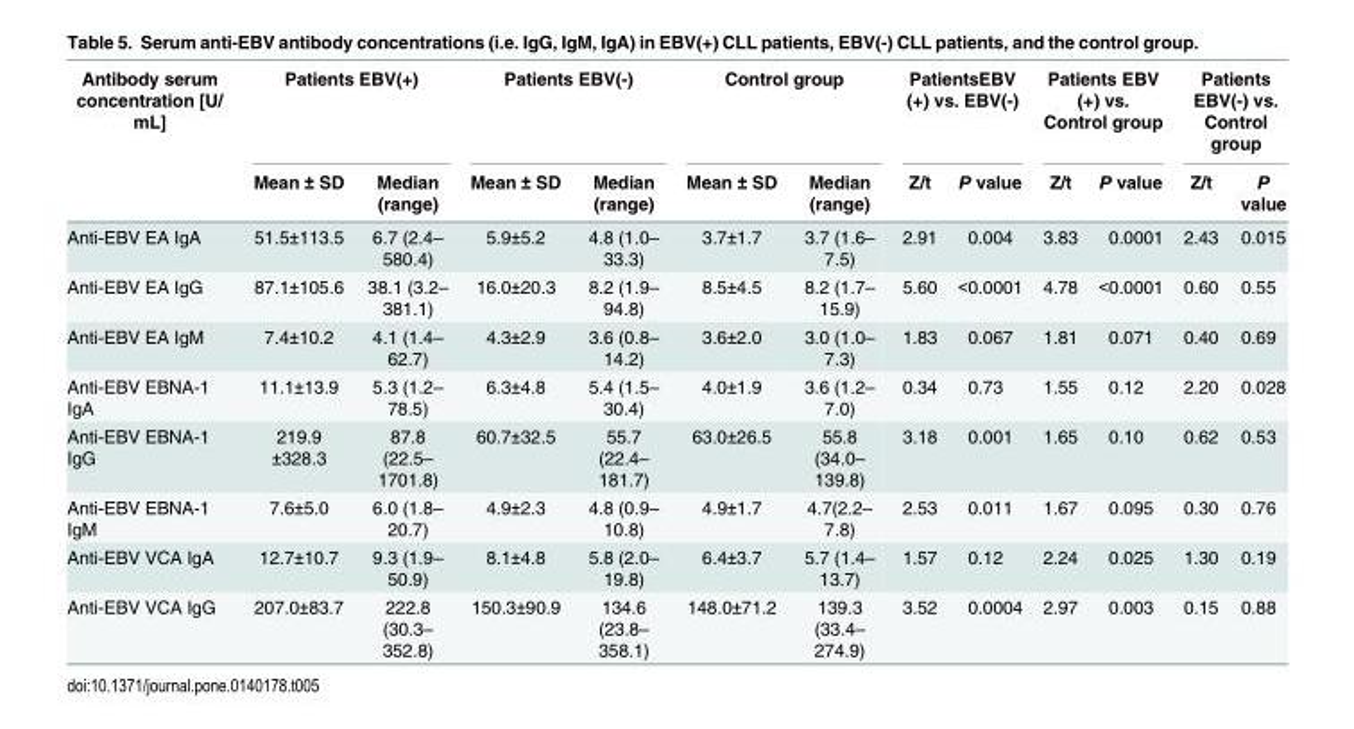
<table><thead><tr><td rowspan="2">Antibody serum concentration [U/ mL]</td><td colspan="2">Patients EBV(+)</td><td colspan="2">Patients EBV(-)</td><td colspan="2">Control group</td><td colspan="2">PatientsEBV (+) vs. EBV(-)</td><td colspan="2">Patients EBV (+) vs. Control group</td><td colspan="2">Patients EBV(-) vs. Control group</td></tr><tr><td>Mean ± SD</td><td>Median (range)</td><td>Mean ± SD</td><td>Median (range)</td><td>Mean ± SD</td><td>Median (range)</td><td>Z/t</td><td>P value</td><td>Z/t</td><td>P value</td><td>Z/t</td><td>P value</td></tr></thead><tbody><tr><td>Anti-EBV EA IgA</td><td>51.5±113.5</td><td>6.7 (2.4– 580.4)</td><td>5.9±5.2</td><td>4.8 (1.0– 33.3)</td><td>3.7±1.7</td><td>3.7 (1.6– 7.5)</td><td>2.91</td><td>0.004</td><td>3.83</td><td>0.0001</td><td>2.43</td><td>0.015</td></tr><tr><td>Anti-EBV EA IgG</td><td>87.1±105.6</td><td>38.1 (3.2– 381.1)</td><td>16.0±20.3</td><td>8.2 (1.9– 94.8)</td><td>8.5±4.5</td><td>8.2 (1.7– 15.9)</td><td>5.60</td><td>&lt;0.0001</td><td>4.78</td><td>&lt;0.0001</td><td>0.60</td><td>0.55</td></tr><tr><td>Anti-EBV EA IgM</td><td>7.4±10.2</td><td>4.1 (1.4– 62.7)</td><td>4.3±2.9</td><td>3.6 (0.8– 14.2)</td><td>3.6±2.0</td><td>3.0 (1.0– 7.3)</td><td>1.83</td><td>0.067</td><td>1.81</td><td>0.071</td><td>0.40</td><td>0.69</td></tr><tr><td>Anti-EBV EBNA-1 IgA</td><td>11.1±13.9</td><td>5.3 (1.2– 78.5)</td><td>6.3±4.8</td><td>5.4 (1.5– 30.4)</td><td>4.0±1.9</td><td>3.6 (1.2– 7.0)</td><td>0.34</td><td>0.73</td><td>1.55</td><td>0.12</td><td>2.20</td><td>0.028</td></tr><tr><td>Anti-EBV EBNA-1 IgG</td><td>219.9 ±328.3</td><td>87.8 (22.5– 1701.8)</td><td>60.7±32.5</td><td>55.7 (22.4– 181.7)</td><td>63.0±26.5</td><td>55.8 (34.0– 139.8)</td><td>3.18</td><td>0.001</td><td>1.65</td><td>0.10</td><td>0.62</td><td>0.53</td></tr><tr><td>Anti-EBV EBNA-1 IgM</td><td>7.6±5.0</td><td>6.0 (1.8– 20.7)</td><td>4.9±2.3</td><td>4.8 (0.9– 10.8)</td><td>4.9±1.7</td><td>4.7(2.2– 7.8)</td><td>2.53</td><td>0.011</td><td>1.67</td><td>0.095</td><td>0.30</td><td>0.76</td></tr><tr><td>Anti-EBV VCA IgA</td><td>12.7±10.7</td><td>9.3 (1.9– 50.9)</td><td>8.1±4.8</td><td>5.8 (2.0– 19.8)</td><td>6.4±3.7</td><td>5.7 (1.4– 13.7)</td><td>1.57</td><td>0.12</td><td>2.24</td><td>0.025</td><td>1.30</td><td>0.19</td></tr><tr><td>Anti-EBV VCA IgG</td><td>207.0±83.7</td><td>222.8 (30.3– 352.8)</td><td>150.3±90.9</td><td>134.6 (23.8– 358.1)</td><td>148.0±71.2</td><td>139.3 (33.4– 274.9)</td><td>3.52</td><td>0.0004</td><td>2.97</td><td>0.003</td><td>0.15</td><td>0.88</td></tr></tbody></table>